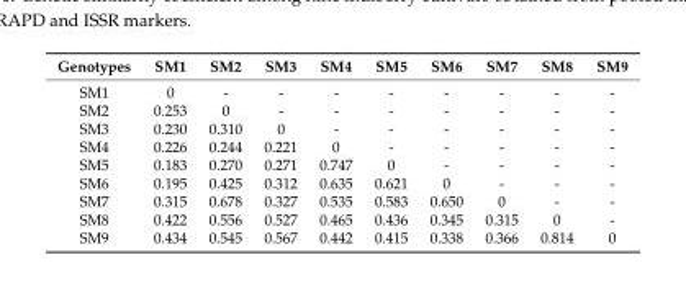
<table><thead><tr><td>Genotypes</td><td>SM1</td><td>SM2</td><td>SM3</td><td>SM4</td><td>SM5</td><td>SM6</td><td>SM7</td><td>SM8</td><td>SM9</td></tr></thead><tbody><tr><td>SM1</td><td>0</td><td>-</td><td>-</td><td>-</td><td>-</td><td>-</td><td>-</td><td>-</td><td>-</td></tr><tr><td>SM2</td><td>0.253</td><td>0</td><td>-</td><td>-</td><td>-</td><td>-</td><td>-</td><td>-</td><td>-</td></tr><tr><td>SM3</td><td>0.230</td><td>0.310</td><td>0</td><td>-</td><td>-</td><td>-</td><td>-</td><td>-</td><td>-</td></tr><tr><td>SM4</td><td>0.226</td><td>0.244</td><td>0.221</td><td>0</td><td>-</td><td>-</td><td>-</td><td>-</td><td>-</td></tr><tr><td>SM5</td><td>0.183</td><td>0.270</td><td>0.271</td><td>0.747</td><td>0</td><td>-</td><td>-</td><td>-</td><td>-</td></tr><tr><td>SM6</td><td>0.195</td><td>0.425</td><td>0.312</td><td>0.635</td><td>0.621</td><td>0</td><td>-</td><td>-</td><td>-</td></tr><tr><td>SM7</td><td>0.315</td><td>0.678</td><td>0.327</td><td>0.535</td><td>0.583</td><td>0.650</td><td>0</td><td>-</td><td>-</td></tr><tr><td>SM8</td><td>0.422</td><td>0.556</td><td>0.527</td><td>0.465</td><td>0.436</td><td>0.345</td><td>0.315</td><td>0</td><td>-</td></tr><tr><td>SM9</td><td>0.434</td><td>0.545</td><td>0.567</td><td>0.442</td><td>0.415</td><td>0.338</td><td>0.366</td><td>0.814</td><td>0</td></tr></tbody></table>